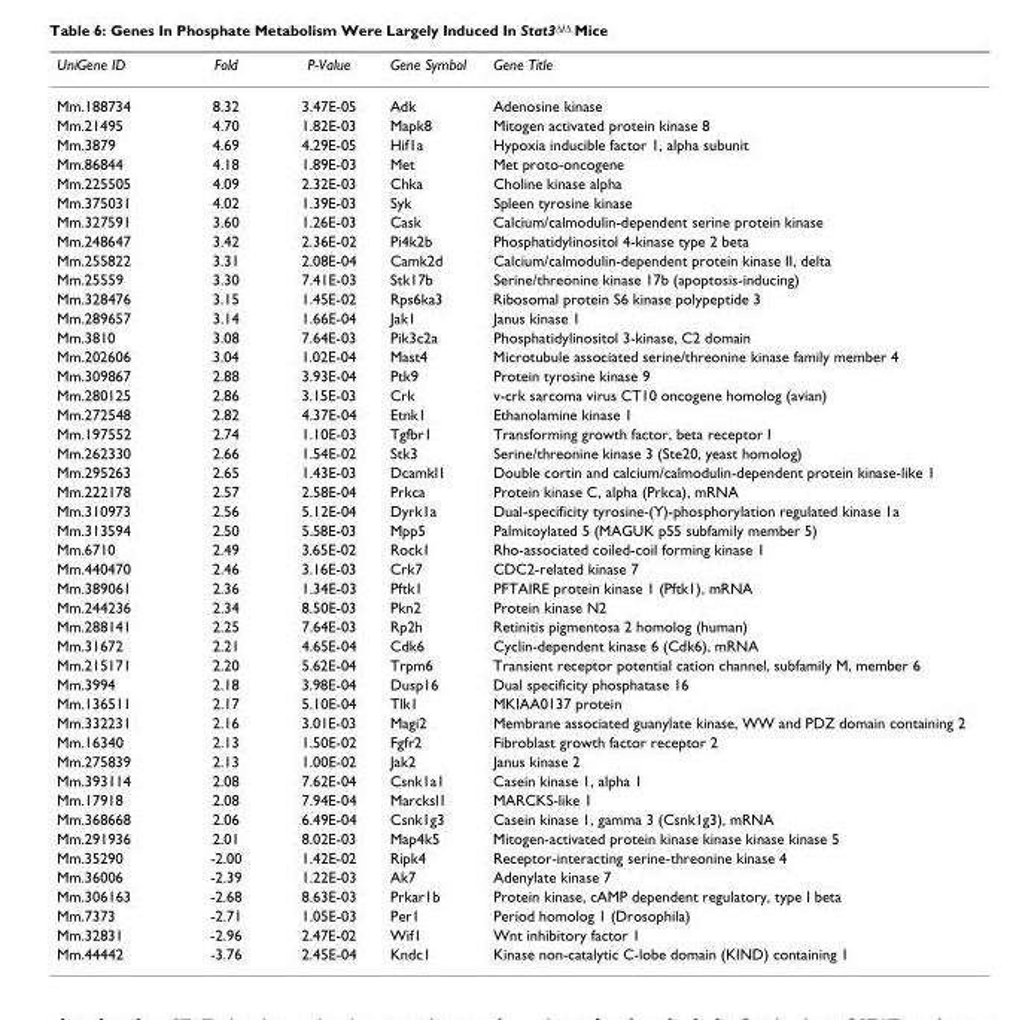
<table><thead><tr><td>UniGene ID</td><td>Fold</td><td>P-Value</td><td>Gene Symbol</td><td>Gene Title</td></tr></thead><tbody><tr><td>Mm.188734</td><td>8.32</td><td>3.47E-05</td><td>Adk</td><td>Adenosine kinase</td></tr><tr><td>Mm.21495</td><td>4.70</td><td>1.82E-03</td><td>Mapk8</td><td>Mitogen activated protein kinase 8</td></tr><tr><td>Mm.3879</td><td>4.69</td><td>4.29E-05</td><td>Hif1a</td><td>Hypoxia inducible factor 1, alpha subunit</td></tr><tr><td>Mm.86844</td><td>4.18</td><td>1.89E-03</td><td>Met</td><td>Met proto-oncogene</td></tr><tr><td>Mm.225505</td><td>4.09</td><td>2.32E-03</td><td>Chka</td><td>Choline kinase alpha</td></tr><tr><td>Mm.375031</td><td>4.02</td><td>1.39E-03</td><td>Syk</td><td>Spleen tyrosine kinase</td></tr><tr><td>Mm.327591</td><td>3.60</td><td>1.26E-03</td><td>Cask</td><td>Calcium/calmodulin-dependent serine protein kinase</td></tr><tr><td>Mm.248647</td><td>3.42</td><td>2.36E-02</td><td>Pi4k2b</td><td>Phosphatidylinositol 4-kinase type 2 beta</td></tr><tr><td>Mm.255822</td><td>3.31</td><td>2.08E-04</td><td>Camk2d</td><td>Calcium/calmodulin-dependent protein kinase II, delta</td></tr><tr><td>Mm.25559</td><td>3.30</td><td>7.41E-03</td><td>Stk17b</td><td>Serine/threonine kinase 17b (apoptosis-inducing)</td></tr><tr><td>Mm.328476</td><td>3.15</td><td>1.45E-02</td><td>Rps6ka3</td><td>Ribosomal protein S6 kinase polypeptide 3</td></tr><tr><td>Mm.289657</td><td>3.14</td><td>1.66E-04</td><td>Jak1</td><td>Janus kinase 1</td></tr><tr><td>Mm.3810</td><td>3.08</td><td>7.64E-03</td><td>Pik3c2a</td><td>Phosphatidylinositol 3-kinase, C2 domain</td></tr><tr><td>Mm.202606</td><td>3.04</td><td>1.02E-04</td><td>Mast4</td><td>Microtubule associated serine/threonine kinase family member 4</td></tr><tr><td>Mm.309867</td><td>2.88</td><td>3.93E-04</td><td>Ptk9</td><td>Protein tyrosine kinase 9</td></tr><tr><td>Mm.280125</td><td>2.86</td><td>3.15E-03</td><td>Crk</td><td>v-crk sarcoma virus CT10 oncogene homolog (avian)</td></tr><tr><td>Mm.272548</td><td>2.82</td><td>4.37E-04</td><td>Etnk1</td><td>Ethanolamine kinase 1</td></tr><tr><td>Mm.197552</td><td>2.74</td><td>1.10E-03</td><td>Tgfbr1</td><td>Transforming growth factor, beta receptor I</td></tr><tr><td>Mm.262330</td><td>2.66</td><td>1.54E-02</td><td>Stk3</td><td>Serine/threonine kinase 3 (Ste20, yeast homolog)</td></tr><tr><td>Mm.295263</td><td>2.65</td><td>1.43E-03</td><td>Dcamkl1</td><td>Double cortin and calcium/calmodulin-dependent protein kinase-like 1</td></tr><tr><td>Mm.222178</td><td>2.57</td><td>2.58E-04</td><td>Prkca</td><td>Protein kinase C, alpha (Prkca), mRNA</td></tr><tr><td>Mm.310973</td><td>2.56</td><td>5.12E-04</td><td>Dyrk1a</td><td>Dual-specificity tyrosine-(Y)-phosphorylation regulated kinase 1a</td></tr><tr><td>Mm.313594</td><td>2.50</td><td>5.58E-03</td><td>Mpp5</td><td>Palmitoylated 5 (MAGUK p55 subfamily member 5)</td></tr><tr><td>Mm.6710</td><td>2.49</td><td>3.65E-02</td><td>Rock1</td><td>Rho-associated coiled-coil forming kinase 1</td></tr><tr><td>Mm.440470</td><td>2.46</td><td>3.16E-03</td><td>Crk7</td><td>CDC2-related kinase 7</td></tr><tr><td>Mm.389061</td><td>2.36</td><td>1.34E-03</td><td>Pftk1</td><td>PFTAIRE protein kinase 1 (Pftk1), mRNA</td></tr><tr><td>Mm.244236</td><td>2.34</td><td>8.50E-03</td><td>Pkn2</td><td>Protein kinase N2</td></tr><tr><td>Mm.288141</td><td>2.25</td><td>7.64E-03</td><td>Rp2h</td><td>Retinitis pigmentosa 2 homolog (human)</td></tr><tr><td>Mm.31672</td><td>2.21</td><td>4.65E-04</td><td>Cdk6</td><td>Cyclin-dependent kinase 6 (Cdk6), mRNA</td></tr><tr><td>Mm.215171</td><td>2.20</td><td>5.62E-04</td><td>Trpm6</td><td>Transient receptor potential cation channel, subfamily M, member 6</td></tr><tr><td>Mm.3994</td><td>2.18</td><td>3.98E-04</td><td>Dusp16</td><td>Dual specificity phosphatase 16</td></tr><tr><td>Mm.136511</td><td>2.17</td><td>5.10E-04</td><td>Tlk1</td><td>MKIAA0137 protein</td></tr><tr><td>Mm.332231</td><td>2.16</td><td>3.01E-03</td><td>Magi2</td><td>Membrane associated guanylate kinase, WW and PDZ domain containing 2</td></tr><tr><td>Mm.16340</td><td>2.13</td><td>1.50E-02</td><td>Fgfr2</td><td>Fibroblast growth factor receptor 2</td></tr><tr><td>Mm.275839</td><td>2.13</td><td>1.00E-02</td><td>Jak2</td><td>Janus kinase 2</td></tr><tr><td>Mm.393114</td><td>2.08</td><td>7.62E-04</td><td>Csnk1a1</td><td>Casein kinase 1, alpha 1</td></tr><tr><td>Mm.17918</td><td>2.08</td><td>7.94E-04</td><td>Marcksl1</td><td>MARCKS-like 1</td></tr><tr><td>Mm.368668</td><td>2.06</td><td>6.49E-04</td><td>Csnk1g3</td><td>Casein kinase 1, gamma 3 (Csnk1g3), mRNA</td></tr><tr><td>Mm.291936</td><td>2.01</td><td>8.02E-03</td><td>Map4k5</td><td>Mitogen-activated protein kinase kinase kinase kinase 5</td></tr><tr><td>Mm.35290</td><td>-2.00</td><td>1.42E-02</td><td>Ripk4</td><td>Receptor-interacting serine-threonine kinase 4</td></tr><tr><td>Mm.36006</td><td>-2.39</td><td>1.22E-03</td><td>Ak7</td><td>Adenylate kinase 7</td></tr><tr><td>Mm.306163</td><td>-2.68</td><td>8.63E-03</td><td>Prkar1b</td><td>Protein kinase, cAMP dependent regulatory, type I beta</td></tr><tr><td>Mm.7373</td><td>-2.71</td><td>1.05E-03</td><td>Per1</td><td>Period homolog 1 (Drosophila)</td></tr><tr><td>Mm.32831</td><td>-2.96</td><td>2.47E-02</td><td>Wif1</td><td>Wnt inhibitory factor 1</td></tr><tr><td>Mm.44442</td><td>-3.76</td><td>2.45E-04</td><td>Kndc1</td><td>Kinase non-catalytic C-lobe domain (KIND) containing 1</td></tr></tbody></table>